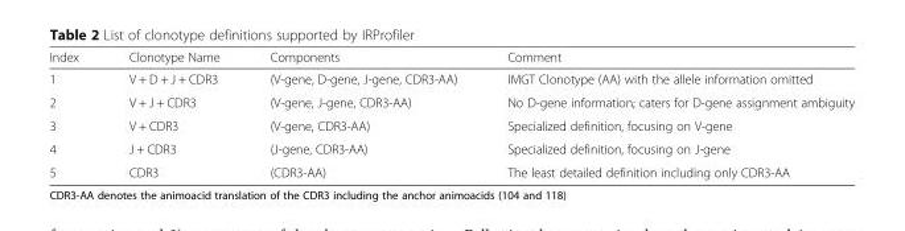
<table><thead><tr><td>Index</td><td>Clonotype Name</td><td>Components</td><td>Comment</td></tr></thead><tbody><tr><td>1</td><td>V + D + J + CDR3</td><td>(V-gene, D-gene, J-gene, CDR3-AA)</td><td>IMGT Clonotype (AA) with the allele information omitted</td></tr><tr><td>2</td><td>V + J + CDR3</td><td>(V-gene, J-gene, CDR3-AA)</td><td>No D-gene information; caters for D-gene assignment ambiguity</td></tr><tr><td>3</td><td>V + CDR3</td><td>(V-gene, CDR3-AA)</td><td>Specialized definition, focusing on V-gene</td></tr><tr><td>4</td><td>J + CDR3</td><td>(J-gene, CDR3-AA)</td><td>Specialized definition, focusing on J-gene</td></tr><tr><td>5</td><td>CDR3</td><td>(CDR3-AA)</td><td>The least detailed definition including only CDR3-AA</td></tr></tbody></table>